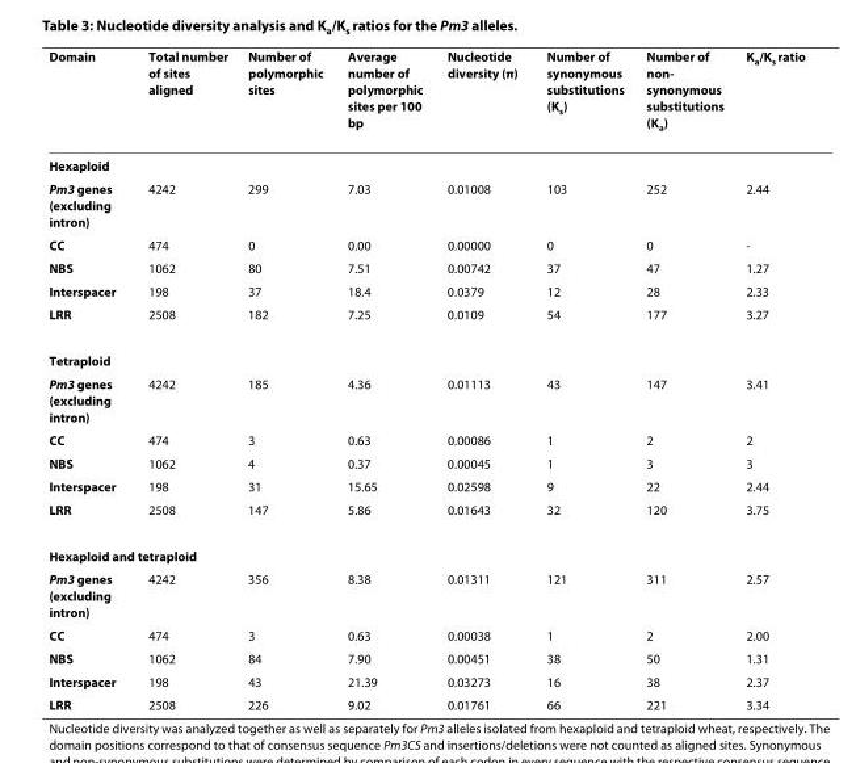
<table><thead><tr><td>Domain</td><td>Total number of sites aligned</td><td>Number of polymorphic sites</td><td>Average number of polymorphic sites per 100 bp</td><td>Nucleotide diversity (π)</td><td>Number of synonymous substitutions (K<sub>s</sub>)</td><td>Number of non- synonymous substitutions (K<sub>a</sub>)</td><td>K<sub>a</sub>/K<sub>s</sub> ratio</td></tr></thead><tbody><tr><td colspan="8">Hexaploid</td></tr><tr><td>Pm3 genes (excluding intron)</td><td>4242</td><td>299</td><td>7.03</td><td>0.01008</td><td>103</td><td>252</td><td>2.44</td></tr><tr><td>CC</td><td>474</td><td>0</td><td>0.00</td><td>0.00000</td><td>0</td><td>0</td><td>-</td></tr><tr><td>NBS</td><td>1062</td><td>80</td><td>7.51</td><td>0.00742</td><td>37</td><td>47</td><td>1.27</td></tr><tr><td>Interspacer</td><td>198</td><td>37</td><td>18.4</td><td>0.0379</td><td>12</td><td>28</td><td>2.33</td></tr><tr><td>LRR</td><td>2508</td><td>182</td><td>7.25</td><td>0.0109</td><td>54</td><td>177</td><td>3.27</td></tr><tr><td colspan="8">Tetraploid</td></tr><tr><td>Pm3 genes (excluding intron)</td><td>4242</td><td>185</td><td>4.36</td><td>0.01113</td><td>43</td><td>147</td><td>3.41</td></tr><tr><td>CC</td><td>474</td><td>3</td><td>0.63</td><td>0.00086</td><td>1</td><td>2</td><td>2</td></tr><tr><td>NBS</td><td>1062</td><td>4</td><td>0.37</td><td>0.00045</td><td>1</td><td>3</td><td>3</td></tr><tr><td>Interspacer</td><td>198</td><td>31</td><td>15.65</td><td>0.02598</td><td>9</td><td>22</td><td>2.44</td></tr><tr><td>LRR</td><td>2508</td><td>147</td><td>5.86</td><td>0.01643</td><td>32</td><td>120</td><td>3.75</td></tr><tr><td colspan="8">Hexaploid and tetraploid</td></tr><tr><td>Pm3 genes (excluding intron)</td><td>4242</td><td>356</td><td>8.38</td><td>0.01311</td><td>121</td><td>311</td><td>2.57</td></tr><tr><td>CC</td><td>474</td><td>3</td><td>0.63</td><td>0.00038</td><td>1</td><td>2</td><td>2.00</td></tr><tr><td>NBS</td><td>1062</td><td>84</td><td>7.90</td><td>0.00451</td><td>38</td><td>50</td><td>1.31</td></tr><tr><td>Interspacer</td><td>198</td><td>43</td><td>21.39</td><td>0.03273</td><td>16</td><td>38</td><td>2.37</td></tr><tr><td>LRR</td><td>2508</td><td>226</td><td>9.02</td><td>0.01761</td><td>66</td><td>221</td><td>3.34</td></tr></tbody></table>